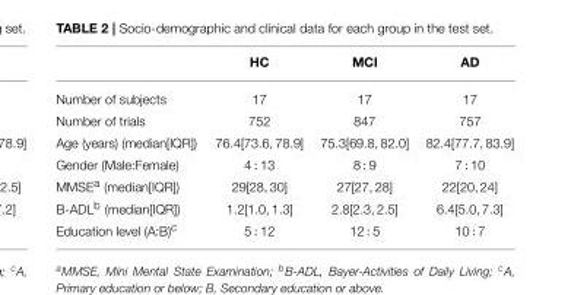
<table><thead><tr><td></td><td>HC</td><td>MCI</td><td>AD</td></tr></thead><tbody><tr><td>Number of subjects</td><td>17</td><td>17</td><td>17</td></tr><tr><td>Number of trials</td><td>752</td><td>847</td><td>757</td></tr><tr><td>Age (years) (median[IQR])</td><td>76.4[73.6, 78.9]</td><td>75.3[69.8, 82.0]</td><td>82.4[77.7, 83.9]</td></tr><tr><td>Gender (Male:Female)</td><td>4 : 13</td><td>8 : 9</td><td>7 : 10</td></tr><tr><td>MMSE<sup>a</sup> (median[IQR])</td><td>29[28, 30]</td><td>27[27, 28]</td><td>22[20, 24]</td></tr><tr><td>B-ADL<sup>b</sup> (median[IQR])</td><td>1.2[1.0, 1.3]</td><td>2.8[2.3, 2.5]</td><td>6.4[5.0, 7.3]</td></tr><tr><td>Education level (A:B)<sup>c</sup></td><td>5 : 12</td><td>12 : 5</td><td>10 : 7</td></tr></tbody></table>